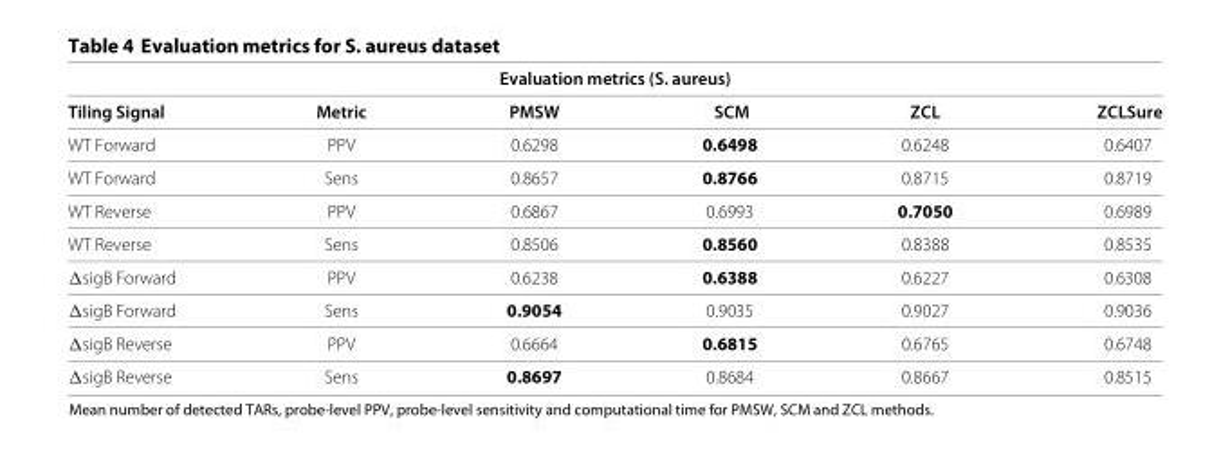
<table><thead><tr><td colspan="6">Evaluation metrics (S. aureus)</td></tr><tr><td>Tiling Signal</td><td>Metric</td><td>PMSW</td><td>SCM</td><td>ZCL</td><td>ZCLSure</td></tr></thead><tbody><tr><td>WT Forward</td><td>PPV</td><td>0.6298</td><td>0.6498</td><td>0.6248</td><td>0.6407</td></tr><tr><td>WT Forward</td><td>Sens</td><td>0.8657</td><td>0.8766</td><td>0.8715</td><td>0.8719</td></tr><tr><td>WT Reverse</td><td>PPV</td><td>0.6867</td><td>0.6993</td><td>0.7050</td><td>0.6989</td></tr><tr><td>WT Reverse</td><td>Sens</td><td>0.8506</td><td>0.8560</td><td>0.8388</td><td>0.8535</td></tr><tr><td>ΔsigB Forward</td><td>PPV</td><td>0.6238</td><td>0.6388</td><td>0.6227</td><td>0.6308</td></tr><tr><td>ΔsigB Forward</td><td>Sens</td><td>0.9054</td><td>0.9035</td><td>0.9027</td><td>0.9036</td></tr><tr><td>ΔsigB Reverse</td><td>PPV</td><td>0.6664</td><td>0.6815</td><td>0.6765</td><td>0.6748</td></tr><tr><td>ΔsigB Reverse</td><td>Sens</td><td>0.8697</td><td>0.8684</td><td>0.8667</td><td>0.8515</td></tr></tbody></table>